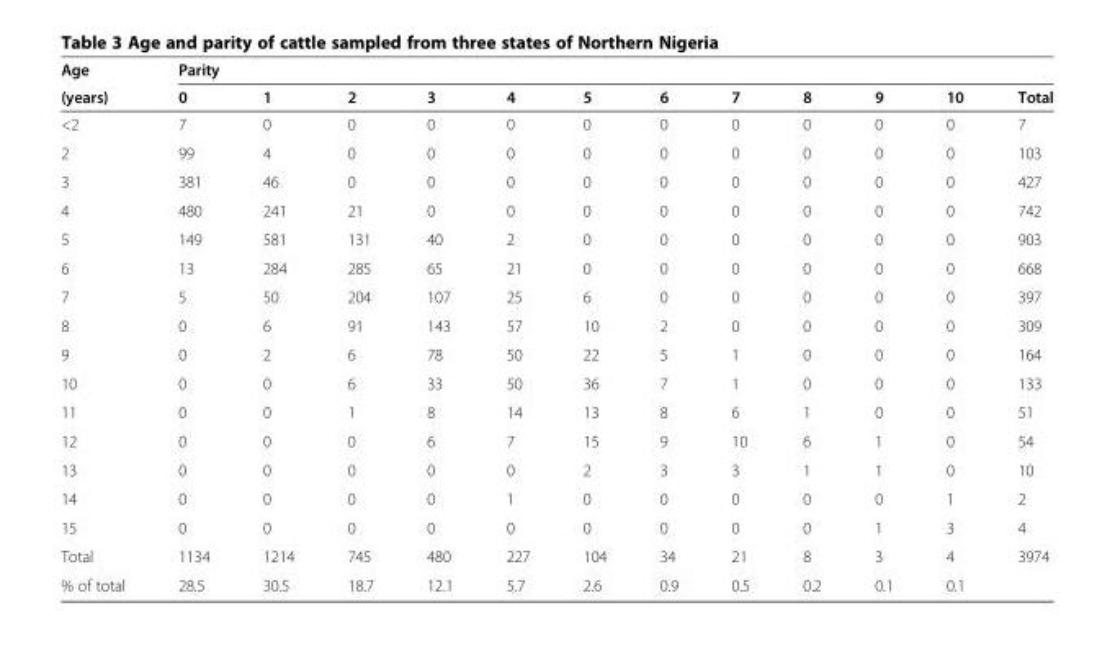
<table><thead><tr><td rowspan="2">Age (years)</td><td colspan="12">Parity</td></tr><tr><td>0</td><td>1</td><td>2</td><td>3</td><td>4</td><td>5</td><td>6</td><td>7</td><td>8</td><td>9</td><td>10</td><td>Total</td></tr></thead><tbody><tr><td>&lt;2</td><td>7</td><td>0</td><td>0</td><td>0</td><td>0</td><td>0</td><td>0</td><td>0</td><td>0</td><td>0</td><td>0</td><td>7</td></tr><tr><td>2</td><td>99</td><td>4</td><td>0</td><td>0</td><td>0</td><td>0</td><td>0</td><td>0</td><td>0</td><td>0</td><td>0</td><td>103</td></tr><tr><td>3</td><td>381</td><td>46</td><td>0</td><td>0</td><td>0</td><td>0</td><td>0</td><td>0</td><td>0</td><td>0</td><td>0</td><td>427</td></tr><tr><td>4</td><td>480</td><td>241</td><td>21</td><td>0</td><td>0</td><td>0</td><td>0</td><td>0</td><td>0</td><td>0</td><td>0</td><td>742</td></tr><tr><td>5</td><td>149</td><td>581</td><td>131</td><td>40</td><td>2</td><td>0</td><td>0</td><td>0</td><td>0</td><td>0</td><td>0</td><td>903</td></tr><tr><td>6</td><td>13</td><td>284</td><td>285</td><td>65</td><td>21</td><td>0</td><td>0</td><td>0</td><td>0</td><td>0</td><td>0</td><td>668</td></tr><tr><td>7</td><td>5</td><td>50</td><td>204</td><td>107</td><td>25</td><td>6</td><td>0</td><td>0</td><td>0</td><td>0</td><td>0</td><td>397</td></tr><tr><td>8</td><td>0</td><td>6</td><td>91</td><td>143</td><td>57</td><td>10</td><td>2</td><td>0</td><td>0</td><td>0</td><td>0</td><td>309</td></tr><tr><td>9</td><td>0</td><td>2</td><td>6</td><td>78</td><td>50</td><td>22</td><td>5</td><td>1</td><td>0</td><td>0</td><td>0</td><td>164</td></tr><tr><td>10</td><td>0</td><td>0</td><td>6</td><td>33</td><td>50</td><td>36</td><td>7</td><td>1</td><td>0</td><td>0</td><td>0</td><td>133</td></tr><tr><td>11</td><td>0</td><td>0</td><td>1</td><td>8</td><td>14</td><td>13</td><td>8</td><td>6</td><td>1</td><td>0</td><td>0</td><td>51</td></tr><tr><td>12</td><td>0</td><td>0</td><td>0</td><td>6</td><td>7</td><td>15</td><td>9</td><td>10</td><td>6</td><td>1</td><td>0</td><td>54</td></tr><tr><td>13</td><td>0</td><td>0</td><td>0</td><td>0</td><td>0</td><td>2</td><td>3</td><td>3</td><td>1</td><td>1</td><td>0</td><td>10</td></tr><tr><td>14</td><td>0</td><td>0</td><td>0</td><td>0</td><td>1</td><td>0</td><td>0</td><td>0</td><td>0</td><td>0</td><td>1</td><td>2</td></tr><tr><td>15</td><td>0</td><td>0</td><td>0</td><td>0</td><td>0</td><td>0</td><td>0</td><td>0</td><td>0</td><td>1</td><td>3</td><td>4</td></tr><tr><td>Total</td><td>1134</td><td>1214</td><td>745</td><td>480</td><td>227</td><td>104</td><td>34</td><td>21</td><td>8</td><td>3</td><td>4</td><td>3974</td></tr><tr><td>% of total</td><td>28.5</td><td>30.5</td><td>18.7</td><td>12.1</td><td>5.7</td><td>2.6</td><td>0.9</td><td>0.5</td><td>0.2</td><td>0.1</td><td>0.1</td><td></td></tr></tbody></table>